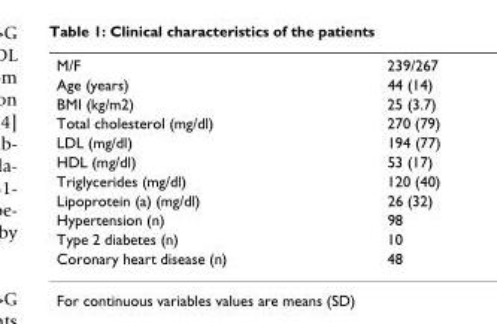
<table><tbody><tr><td>M/F</td><td>239/267</td></tr><tr><td>Age (years)</td><td>44 (14)</td></tr><tr><td>BMI (kg/m2)</td><td>25 (3.7)</td></tr><tr><td>Total cholesterol (mg/dl)</td><td>270 (79)</td></tr><tr><td>LDL (mg/dl)</td><td>194 (77)</td></tr><tr><td>HDL (mg/dl)</td><td>53 (17)</td></tr><tr><td>Triglycerides (mg/dl)</td><td>120 (40)</td></tr><tr><td>Lipoprotein (a) (mg/dl)</td><td>26 (32)</td></tr><tr><td>Hypertension (n)</td><td>98</td></tr><tr><td>Type 2 diabetes (n)</td><td>10</td></tr><tr><td>Coronary heart disease (n)</td><td>48</td></tr></tbody></table>